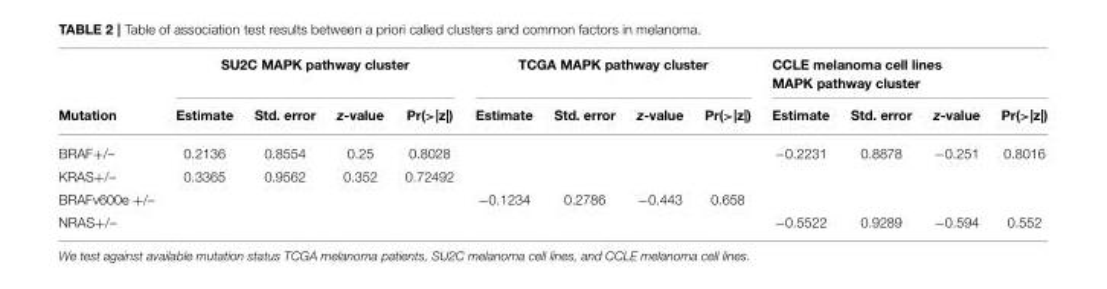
<table><thead><tr><td rowspan="2">Mutation</td><td colspan="4">SU2C MAPK pathway cluster</td><td colspan="4">TCGA MAPK pathway cluster</td><td colspan="4">CCLE melanoma cell lines MAPK pathway cluster</td></tr><tr><td>Estimate</td><td>Std. error</td><td>z-value</td><td>Pr(&gt;|z|)</td><td>Estimate</td><td>Std. error</td><td>z-value</td><td>Pr(&gt;|z|)</td><td>Estimate</td><td>Std. error</td><td>z-value</td><td>Pr(&gt;|z|)</td></tr></thead><tbody><tr><td>BRAF+/–</td><td>0.2136</td><td>0.8554</td><td>0.25</td><td>0.8028</td><td></td><td></td><td></td><td></td><td>−0.2231</td><td>0.8878</td><td>−0.251</td><td>0.8016</td></tr><tr><td>KRAS+/–</td><td>0.3365</td><td>0.9562</td><td>0.352</td><td>0.72492</td><td></td><td></td><td></td><td></td><td></td><td></td><td></td><td></td></tr><tr><td>BRAFv600e +/–</td><td></td><td></td><td></td><td></td><td>−0.1234</td><td>0.2786</td><td>−0.443</td><td>0.658</td><td></td><td></td><td></td><td></td></tr><tr><td>NRAS+/–</td><td></td><td></td><td></td><td></td><td></td><td></td><td></td><td></td><td>−0.5522</td><td>0.9289</td><td>−0.594</td><td>0.552</td></tr></tbody></table>